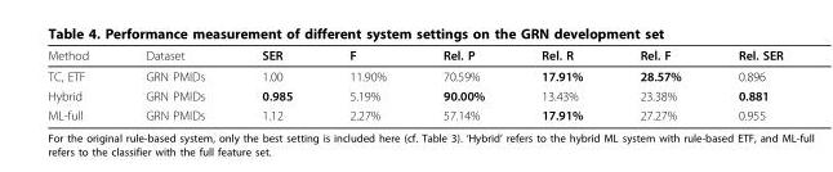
<table><thead><tr><td>Method</td><td>Dataset</td><td>SER</td><td>F</td><td>Rel. P</td><td>Rel. R</td><td>Rel. F</td><td>Rel. SER</td></tr></thead><tbody><tr><td>TC, ETF</td><td>GRN PMIDs</td><td>1.00</td><td>11.90%</td><td>70.59%</td><td>17.91%</td><td>28.57%</td><td>0.896</td></tr><tr><td>Hybrid</td><td>GRN PMIDs</td><td>0.985</td><td>5.19%</td><td>90.00%</td><td>13.43%</td><td>23.38%</td><td>0.881</td></tr><tr><td>ML-full</td><td>GRN PMIDs</td><td>1.12</td><td>2.27%</td><td>57.14%</td><td>17.91%</td><td>27.27%</td><td>0.955</td></tr></tbody></table>